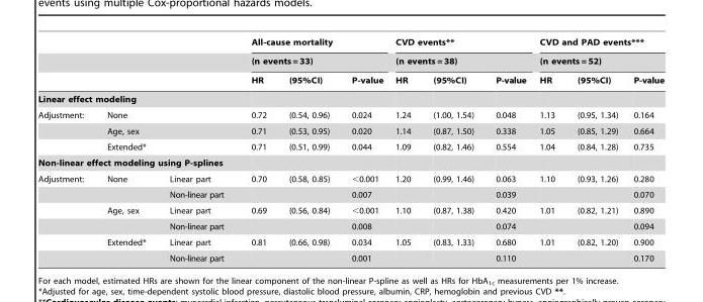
<table><thead><tr><td rowspan="3"></td><td rowspan="3"></td><td rowspan="3"></td><td rowspan="2" colspan="3">All-cause mortality (n events = 33)</td><td rowspan="2" colspan="3">CVD events** (n events = 38)</td><td rowspan="2" colspan="3">CVD and PAD events*** (n events = 52)</td></tr><tr></tr><tr><td>HR</td><td>(95%CI)</td><td>P-value</td><td>HR</td><td>(95%CI)</td><td>P-value</td><td>HR</td><td>(95%CI)</td><td>P-value</td></tr></thead><tbody><tr><td colspan="12">Linear effect modeling</td></tr><tr><td rowspan="3">Adjustment:</td><td colspan="2">None</td><td>0.72</td><td>(0.54, 0.96)</td><td>0.024</td><td>1.24</td><td>(1.00, 1.54)</td><td>0.048</td><td>1.13</td><td>(0.95, 1.34)</td><td>0.164</td></tr><tr><td colspan="2">Age, sex</td><td>0.71</td><td>(0.53, 0.95)</td><td>0.020</td><td>1.14</td><td>(0.87, 1.50)</td><td>0.338</td><td>1.05</td><td>(0.85, 1.29)</td><td>0.664</td></tr><tr><td colspan="2">Extended*</td><td>0.71</td><td>(0.51, 0.99)</td><td>0.044</td><td>1.09</td><td>(0.82, 1.46)</td><td>0.554</td><td>1.04</td><td>(0.84, 1.28)</td><td>0.735</td></tr><tr><td colspan="12">Non-linear effect modeling using P-splines</td></tr><tr><td rowspan="6">Adjustment:</td><td>None</td><td>Linear part</td><td>0.70</td><td>(0.58, 0.85)</td><td>&lt;0.001</td><td>1.20</td><td>(0.99, 1.46)</td><td>0.063</td><td>1.10</td><td>(0.93, 1.26)</td><td>0.280</td></tr><tr><td></td><td>Non-linear part</td><td></td><td></td><td>0.007</td><td></td><td></td><td>0.039</td><td></td><td></td><td>0.070</td></tr><tr><td>Age, sex</td><td>Linear part</td><td>0.69</td><td>(0.56, 0.84)</td><td>&lt;0.001</td><td>1.10</td><td>(0.87, 1.38)</td><td>0.420</td><td>1.01</td><td>(0.82, 1.21)</td><td>0.890</td></tr><tr><td></td><td>Non-linear part</td><td></td><td></td><td>0.008</td><td></td><td></td><td>0.074</td><td></td><td></td><td>0.094</td></tr><tr><td>Extended*</td><td>Linear part</td><td>0.81</td><td>(0.66, 0.98)</td><td>0.034</td><td>1.05</td><td>(0.83, 1.33)</td><td>0.680</td><td>1.01</td><td>(0.82, 1.20)</td><td>0.900</td></tr><tr><td></td><td>Non-linear part</td><td></td><td></td><td>0.001</td><td></td><td></td><td>0.110</td><td></td><td></td><td>0.170</td></tr></tbody></table>